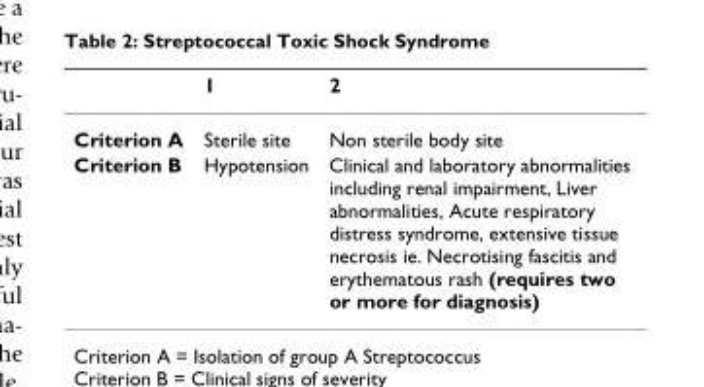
<table><thead><tr><td></td><td>1</td><td>2</td></tr></thead><tbody><tr><td>Criterion A</td><td>Sterile site</td><td>Non sterile body site</td></tr><tr><td>Criterion B</td><td>Hypotension</td><td>Clinical and laboratory abnormalities including renal impairment, Liver abnormalities, Acute respiratory distress syndrome, extensive tissue necrosis ie. Necrotising fascitis and erythematous rash (requires two or more for diagnosis)</td></tr></tbody></table>